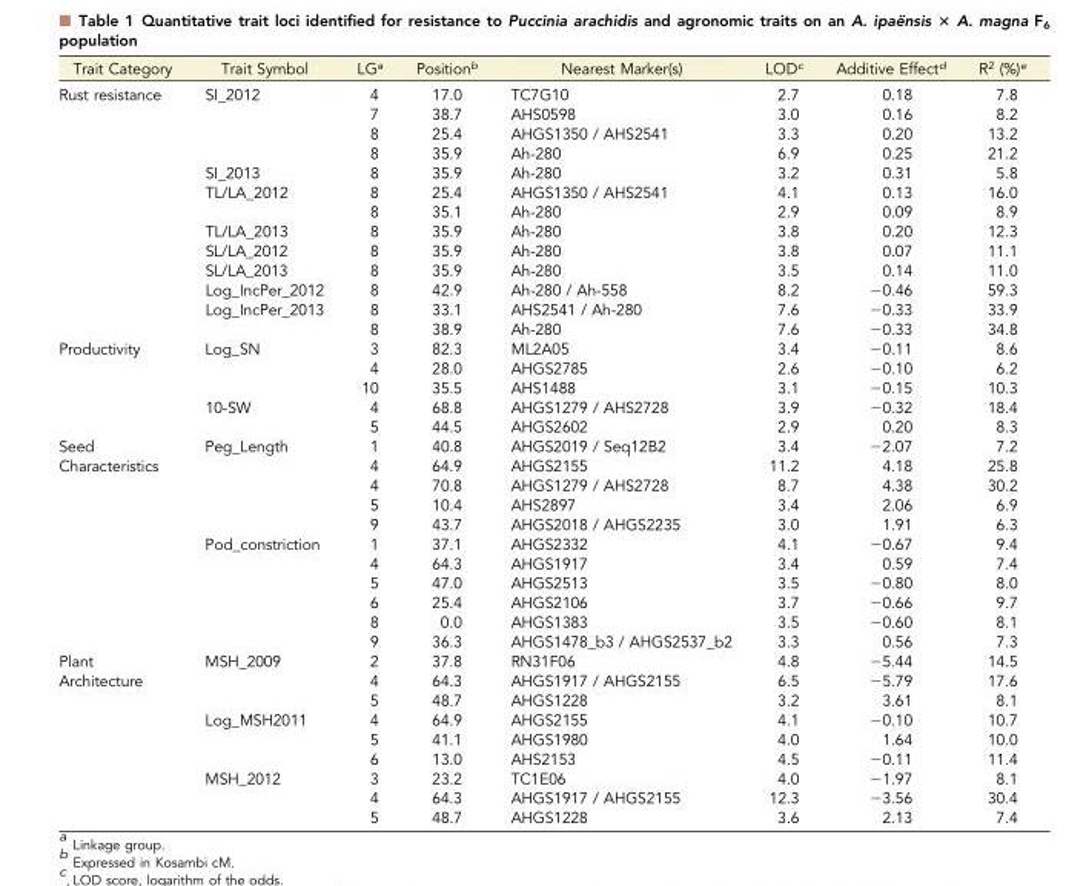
<table><thead><tr><td>Trait Category</td><td>Trait Symbol</td><td>LG<sup>a</sup></td><td>Position<sup>b</sup></td><td>Nearest Marker(s)</td><td>LOD<sup>c</sup></td><td>Additive Effect<sup>d</sup></td><td>R<sup>2</sup> (%)<sup>e</sup></td></tr></thead><tbody><tr><td rowspan="13">Rust resistance</td><td>SI_2012</td><td>4</td><td>17.0</td><td>TC7G10</td><td>2.7</td><td>0.18</td><td>7.8</td></tr><tr><td></td><td>7</td><td>38.7</td><td>AHS0598</td><td>3.0</td><td>0.16</td><td>8.2</td></tr><tr><td></td><td>8</td><td>25.4</td><td>AHGS1350 / AHS2541</td><td>3.3</td><td>0.20</td><td>13.2</td></tr><tr><td></td><td>8</td><td>35.9</td><td>Ah-280</td><td>6.9</td><td>0.25</td><td>21.2</td></tr><tr><td>SI_2013</td><td>8</td><td>35.9</td><td>Ah-280</td><td>3.2</td><td>0.31</td><td>5.8</td></tr><tr><td>TL/LA_2012</td><td>8</td><td>25.4</td><td>AHGS1350 / AHS2541</td><td>4.1</td><td>0.13</td><td>16.0</td></tr><tr><td></td><td>8</td><td>35.1</td><td>Ah-280</td><td>2.9</td><td>0.09</td><td>8.9</td></tr><tr><td>TL/LA_2013</td><td>8</td><td>35.9</td><td>Ah-280</td><td>3.8</td><td>0.20</td><td>12.3</td></tr><tr><td>SL/LA_2012</td><td>8</td><td>35.9</td><td>Ah-280</td><td>3.8</td><td>0.07</td><td>11.1</td></tr><tr><td>SL/LA_2013</td><td>8</td><td>35.9</td><td>Ah-280</td><td>3.5</td><td>0.14</td><td>11.0</td></tr><tr><td>Log_IncPer_2012</td><td>8</td><td>42.9</td><td>Ah-280 / Ah-558</td><td>8.2</td><td>−0.46</td><td>59.3</td></tr><tr><td>Log_IncPer_2013</td><td>8</td><td>33.1</td><td>AHS2541 / Ah-280</td><td>7.6</td><td>−0.33</td><td>33.9</td></tr><tr><td></td><td>8</td><td>38.9</td><td>Ah-280</td><td>7.6</td><td>−0.33</td><td>34.8</td></tr><tr><td rowspan="5">Productivity</td><td>Log_SN</td><td>3</td><td>82.3</td><td>ML2A05</td><td>3.4</td><td>−0.11</td><td>8.6</td></tr><tr><td></td><td>4</td><td>28.0</td><td>AHGS2785</td><td>2.6</td><td>−0.10</td><td>6.2</td></tr><tr><td></td><td>10</td><td>35.5</td><td>AHS1488</td><td>3.1</td><td>−0.15</td><td>10.3</td></tr><tr><td>10-SW</td><td>4</td><td>68.8</td><td>AHGS1279 / AHS2728</td><td>3.9</td><td>−0.32</td><td>18.4</td></tr><tr><td></td><td>5</td><td>44.5</td><td>AHGS2602</td><td>2.9</td><td>0.20</td><td>8.3</td></tr><tr><td>Seed</td><td>Peg_Length</td><td>1</td><td>40.8</td><td>AHGS2019 / Seq12B2</td><td>3.4</td><td>−2.07</td><td>7.2</td></tr><tr><td rowspan="10">Characteristics</td><td></td><td>4</td><td>64.9</td><td>AHGS2155</td><td>11.2</td><td>4.18</td><td>25.8</td></tr><tr><td></td><td>4</td><td>70.8</td><td>AHGS1279 / AHS2728</td><td>8.7</td><td>4.38</td><td>30.2</td></tr><tr><td></td><td>5</td><td>10.4</td><td>AHS2897</td><td>3.4</td><td>2.06</td><td>6.9</td></tr><tr><td></td><td>9</td><td>43.7</td><td>AHGS2018 / AHGS2235</td><td>3.0</td><td>1.91</td><td>6.3</td></tr><tr><td>Pod_constriction</td><td>1</td><td>37.1</td><td>AHGS2332</td><td>4.1</td><td>−0.67</td><td>9.4</td></tr><tr><td></td><td>4</td><td>64.3</td><td>AHGS1917</td><td>3.4</td><td>0.59</td><td>7.4</td></tr><tr><td></td><td>5</td><td>47.0</td><td>AHGS2513</td><td>3.5</td><td>−0.80</td><td>8.0</td></tr><tr><td></td><td>6</td><td>25.4</td><td>AHGS2106</td><td>3.7</td><td>−0.66</td><td>9.7</td></tr><tr><td></td><td>8</td><td>0.0</td><td>AHGS1383</td><td>3.5</td><td>−0.60</td><td>8.1</td></tr><tr><td></td><td>9</td><td>36.3</td><td>AHGS1478_b3 / AHGS2537_b2</td><td>3.3</td><td>0.56</td><td>7.3</td></tr><tr><td>Plant</td><td>MSH_2009</td><td>2</td><td>37.8</td><td>RN31F06</td><td>4.8</td><td>−5.44</td><td>14.5</td></tr><tr><td rowspan="8">Architecture</td><td></td><td>4</td><td>64.3</td><td>AHGS1917 / AHGS2155</td><td>6.5</td><td>−5.79</td><td>17.6</td></tr><tr><td></td><td>5</td><td>48.7</td><td>AHGS1228</td><td>3.2</td><td>3.61</td><td>8.1</td></tr><tr><td>Log_MSH2011</td><td>4</td><td>64.9</td><td>AHGS2155</td><td>4.1</td><td>−0.10</td><td>10.7</td></tr><tr><td></td><td>5</td><td>41.1</td><td>AHGS1980</td><td>4.0</td><td>1.64</td><td>10.0</td></tr><tr><td></td><td>6</td><td>13.0</td><td>AHS2153</td><td>4.5</td><td>−0.11</td><td>11.4</td></tr><tr><td>MSH_2012</td><td>3</td><td>23.2</td><td>TC1E06</td><td>4.0</td><td>−1.97</td><td>8.1</td></tr><tr><td></td><td>4</td><td>64.3</td><td>AHGS1917 / AHGS2155</td><td>12.3</td><td>−3.56</td><td>30.4</td></tr><tr><td></td><td>5</td><td>48.7</td><td>AHGS1228</td><td>3.6</td><td>2.13</td><td>7.4</td></tr></tbody></table>